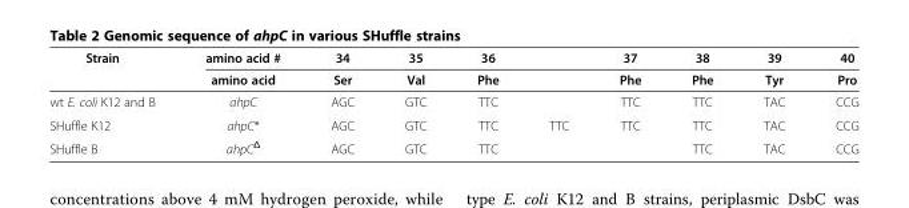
<table><thead><tr><td rowspan="2">Strain</td><td rowspan="2">amino acid # amino acid</td><td rowspan="2">34 Ser</td><td rowspan="2">35 Val</td><td rowspan="2">36 Phe</td><td rowspan="2"></td><td rowspan="2">37 Phe</td><td rowspan="2">38 Phe</td><td rowspan="2">39 Tyr</td><td rowspan="2">40 Pro</td></tr><tr></tr></thead><tbody><tr><td>wt E. coli K12 and B</td><td>ahpC</td><td>AGC</td><td>GTC</td><td>TTC</td><td></td><td>TTC</td><td>TTC</td><td>TAC</td><td>CCG</td></tr><tr><td>SHuffle K12</td><td>ahpC*</td><td>AGC</td><td>GTC</td><td>TTC</td><td>TTC</td><td>TTC</td><td>TTC</td><td>TAC</td><td>CCG</td></tr><tr><td>SHuffle B</td><td>ahpC<sup>Δ</sup></td><td>AGC</td><td>GTC</td><td>TTC</td><td></td><td></td><td>TTC</td><td>TAC</td><td>CCG</td></tr></tbody></table>